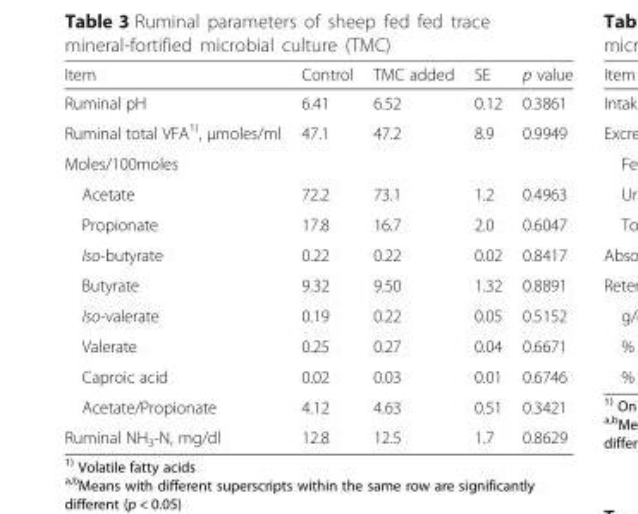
<table><thead><tr><td>Item</td><td>Control</td><td>TMC added</td><td>SE</td><td>p value</td></tr></thead><tbody><tr><td>Ruminal pH</td><td>6.41</td><td>6.52</td><td>0.12</td><td>0.3861</td></tr><tr><td>Ruminal total VFA<sup>1)</sup>, μmoles/ml</td><td>47.1</td><td>47.2</td><td>8.9</td><td>0.9949</td></tr><tr><td colspan="5">Moles/100moles</td></tr><tr><td>Acetate</td><td>72.2</td><td>73.1</td><td>1.2</td><td>0.4963</td></tr><tr><td>Propionate</td><td>17.8</td><td>16.7</td><td>2.0</td><td>0.6047</td></tr><tr><td>Iso-butyrate</td><td>0.22</td><td>0.22</td><td>0.02</td><td>0.8417</td></tr><tr><td>Butyrate</td><td>9.32</td><td>9.50</td><td>1.32</td><td>0.8891</td></tr><tr><td>Iso-valerate</td><td>0.19</td><td>0.22</td><td>0.05</td><td>0.5152</td></tr><tr><td>Valerate</td><td>0.25</td><td>0.27</td><td>0.04</td><td>0.6671</td></tr><tr><td>Caproic acid</td><td>0.02</td><td>0.03</td><td>0.01</td><td>0.6746</td></tr><tr><td>Acetate/Propionate</td><td>4.12</td><td>4.63</td><td>0.51</td><td>0.3421</td></tr><tr><td>Ruminal NH<sub>3</sub>-N, mg/dl</td><td>12.8</td><td>12.5</td><td>1.7</td><td>0.8629</td></tr></tbody></table>